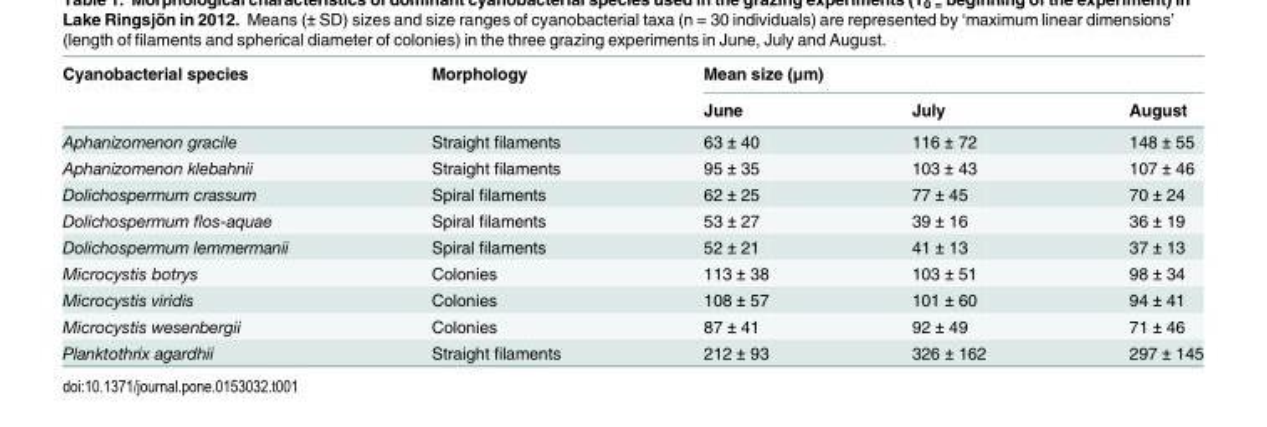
<table><thead><tr><td rowspan="2">Cyanobacterial species</td><td rowspan="2">Morphology</td><td colspan="3">Mean size (μm)</td></tr><tr><td>June</td><td>July</td><td>August</td></tr></thead><tbody><tr><td>Aphanizomenon gracile</td><td>Straight filaments</td><td>63 ± 40</td><td>116 ± 72</td><td>148 ± 55</td></tr><tr><td>Aphanizomenon klebahnii</td><td>Straight filaments</td><td>95 ± 35</td><td>103 ± 43</td><td>107 ± 46</td></tr><tr><td>Dolichospermum crassum</td><td>Spiral filaments</td><td>62 ± 25</td><td>77 ± 45</td><td>70 ± 24</td></tr><tr><td>Dolichospermum flos-aquae</td><td>Spiral filaments</td><td>53 ± 27</td><td>39 ± 16</td><td>36 ± 19</td></tr><tr><td>Dolichospermum lemmermanii</td><td>Spiral filaments</td><td>52 ± 21</td><td>41 ± 13</td><td>37 ± 13</td></tr><tr><td>Microcystis botrys</td><td>Colonies</td><td>113 ± 38</td><td>103 ± 51</td><td>98 ± 34</td></tr><tr><td>Microcystis viridis</td><td>Colonies</td><td>108 ± 57</td><td>101 ± 60</td><td>94 ± 41</td></tr><tr><td>Microcystis wesenbergii</td><td>Colonies</td><td>87 ± 41</td><td>92 ± 49</td><td>71 ± 46</td></tr><tr><td>Planktothrix agardhii</td><td>Straight filaments</td><td>212 ± 93</td><td>326 ± 162</td><td>297 ± 145</td></tr></tbody></table>